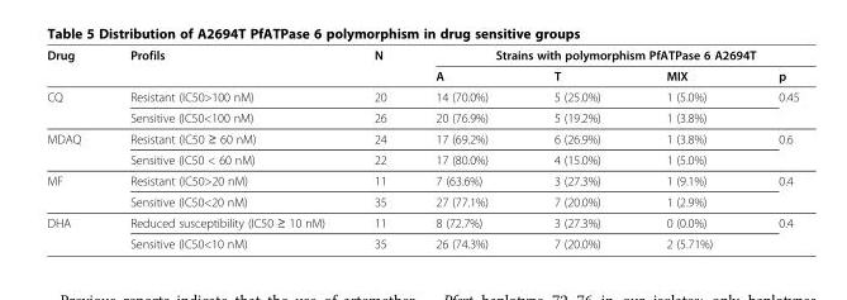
<table><thead><tr><td rowspan="2">Drug</td><td rowspan="2">Profils</td><td rowspan="2">N</td><td colspan="4">Strains with polymorphism PfATPase 6 A2694T</td></tr><tr><td>A</td><td>T</td><td>MIX</td><td>p</td></tr></thead><tbody><tr><td rowspan="2">CQ</td><td>Resistant (IC50&gt;100 nM)</td><td>20</td><td>14 (70.0%)</td><td>5 (25.0%)</td><td>1 (5.0%)</td><td rowspan="2">0.45</td></tr><tr><td>Sensitive (IC50&lt;100 nM)</td><td>26</td><td>20 (76.9%)</td><td>5 (19.2%)</td><td>1 (3.8%)</td></tr><tr><td rowspan="2">MDAQ</td><td>Resistant (IC50 ≥ 60 nM)</td><td>24</td><td>17 (69.2%)</td><td>6 (26.9%)</td><td>1 (3.8%)</td><td rowspan="2">0.6</td></tr><tr><td>Sensitive (IC50 &lt; 60 nM)</td><td>22</td><td>17 (80.0%)</td><td>4 (15.0%)</td><td>1 (5.0%)</td></tr><tr><td rowspan="2">MF</td><td>Resistant (IC50&gt;20 nM)</td><td>11</td><td>7 (63.6%)</td><td>3 (27.3%)</td><td>1 (9.1%)</td><td rowspan="2">0.4</td></tr><tr><td>Sensitive (IC50&lt;20 nM)</td><td>35</td><td>27 (77.1%)</td><td>7 (20.0%)</td><td>1 (2.9%)</td></tr><tr><td rowspan="2">DHA</td><td>Reduced susceptibility (IC50 ≥ 10 nM)</td><td>11</td><td>8 (72.7%)</td><td>3 (27.3%)</td><td>0 (0.0%)</td><td rowspan="2">0.4</td></tr><tr><td>Sensitive (IC50&lt;10 nM)</td><td>35</td><td>26 (74.3%)</td><td>7 (20.0%)</td><td>2 (5.71%)</td></tr></tbody></table>